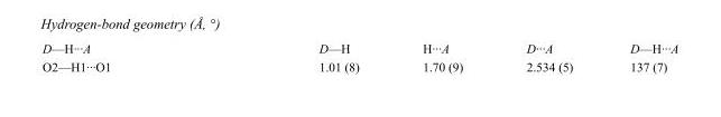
<table><tbody><tr><td>D—H···A</td><td>D—H</td><td>H···A</td><td>D···A</td><td>D—H···A</td></tr><tr><td>O2—H1···O1</td><td>1.01 (8)</td><td>1.70 (9)</td><td>2.534 (5)</td><td>137 (7)</td></tr></tbody></table>